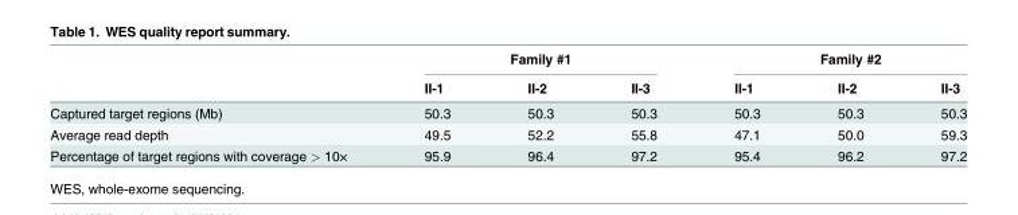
<table><thead><tr><td rowspan="2"></td><td colspan="3">Family #1</td><td colspan="3">Family #2</td></tr><tr><td>II-1</td><td>II-2</td><td>II-3</td><td>II-1</td><td>II-2</td><td>II-3</td></tr></thead><tbody><tr><td>Captured target regions (Mb)</td><td>50.3</td><td>50.3</td><td>50.3</td><td>50.3</td><td>50.3</td><td>50.3</td></tr><tr><td>Average read depth</td><td>49.5</td><td>52.2</td><td>55.8</td><td>47.1</td><td>50.0</td><td>59.3</td></tr><tr><td>Percentage of target regions with coverage &gt; 10×</td><td>95.9</td><td>96.4</td><td>97.2</td><td>95.4</td><td>96.2</td><td>97.2</td></tr></tbody></table>